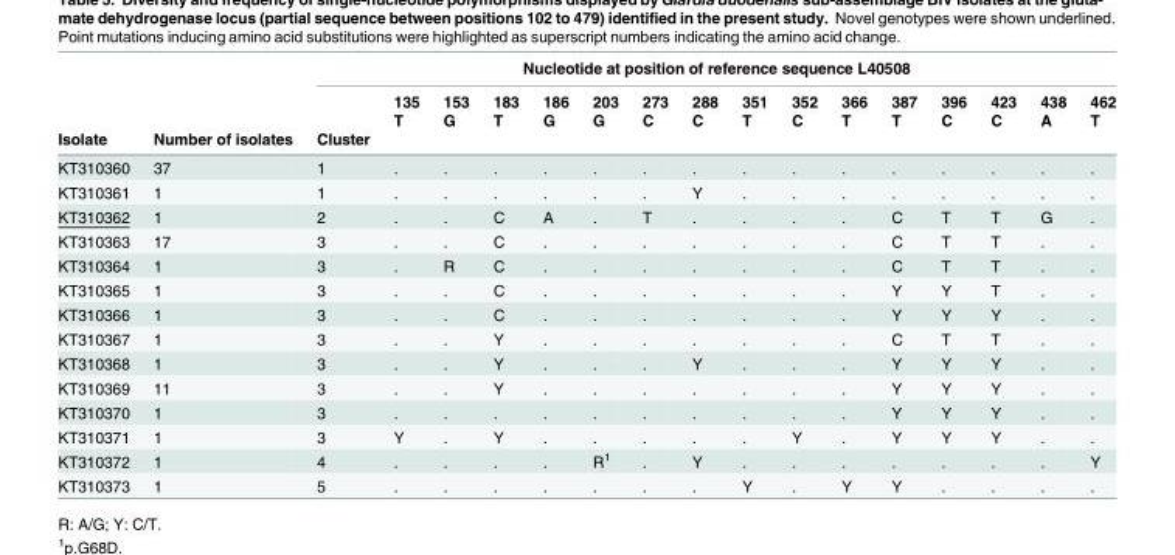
<table><thead><tr><td rowspan="4">Isolate</td><td rowspan="4">Number of isolates</td><td colspan="16">Nucleotide at position of reference sequence L40508</td></tr><tr><td rowspan="3">Cluster</td><td rowspan="3">135 T</td><td rowspan="3">153 G</td><td rowspan="3">183 T</td><td rowspan="3">186 G</td><td rowspan="3">203 G</td><td rowspan="3">273 C</td><td rowspan="3">288 C</td><td rowspan="3">351 T</td><td rowspan="3">352 C</td><td rowspan="3">366 T</td><td rowspan="3">387 T</td><td rowspan="3">396 C</td><td rowspan="3">423 C</td><td rowspan="3">438 A</td><td rowspan="3">462 T</td></tr><tr></tr><tr></tr></thead><tbody><tr><td>KT310360</td><td>37</td><td>1</td><td>.</td><td>.</td><td>.</td><td>.</td><td>.</td><td>.</td><td>.</td><td>.</td><td>.</td><td>.</td><td>.</td><td>.</td><td>.</td><td>.</td><td>.</td></tr><tr><td>KT310361</td><td>1</td><td>1</td><td>.</td><td>.</td><td>.</td><td>.</td><td>.</td><td>.</td><td>Y</td><td>.</td><td>.</td><td>.</td><td>.</td><td>.</td><td>.</td><td>.</td><td>.</td></tr><tr><td>KT310362</td><td>1</td><td>2</td><td>.</td><td>.</td><td>C</td><td>A</td><td>.</td><td>T</td><td>.</td><td>.</td><td>.</td><td>.</td><td>C</td><td>T</td><td>T</td><td>G</td><td>.</td></tr><tr><td>KT310363</td><td>17</td><td>3</td><td>.</td><td>.</td><td>C</td><td>.</td><td>.</td><td>.</td><td>.</td><td>.</td><td>.</td><td>.</td><td>C</td><td>T</td><td>T</td><td>.</td><td>.</td></tr><tr><td>KT310364</td><td>1</td><td>3</td><td>.</td><td>R</td><td>C</td><td>.</td><td>.</td><td>.</td><td>.</td><td>.</td><td>.</td><td>.</td><td>C</td><td>T</td><td>T</td><td>.</td><td>.</td></tr><tr><td>KT310365</td><td>1</td><td>3</td><td>.</td><td>.</td><td>C</td><td>.</td><td>.</td><td>.</td><td>.</td><td>.</td><td>.</td><td>.</td><td>Y</td><td>Y</td><td>T</td><td>.</td><td>.</td></tr><tr><td>KT310366</td><td>1</td><td>3</td><td>.</td><td>.</td><td>C</td><td>.</td><td>.</td><td>.</td><td>.</td><td>.</td><td>.</td><td>.</td><td>Y</td><td>Y</td><td>Y</td><td>.</td><td>.</td></tr><tr><td>KT310367</td><td>1</td><td>3</td><td>.</td><td>.</td><td>Y</td><td>.</td><td>.</td><td>.</td><td>.</td><td>.</td><td>.</td><td>.</td><td>C</td><td>T</td><td>T</td><td>.</td><td>.</td></tr><tr><td>KT310368</td><td>1</td><td>3</td><td>.</td><td>.</td><td>Y</td><td>.</td><td>.</td><td>.</td><td>Y</td><td>.</td><td>.</td><td>.</td><td>Y</td><td>Y</td><td>Y</td><td>.</td><td>.</td></tr><tr><td>KT310369</td><td>11</td><td>3</td><td>.</td><td>.</td><td>Y</td><td>.</td><td>.</td><td>.</td><td>.</td><td>.</td><td>.</td><td>.</td><td>Y</td><td>Y</td><td>Y</td><td>.</td><td>.</td></tr><tr><td>KT310370</td><td>1</td><td>3</td><td>.</td><td>.</td><td>.</td><td>.</td><td>.</td><td>.</td><td>.</td><td>.</td><td>.</td><td>.</td><td>Y</td><td>Y</td><td>Y</td><td>.</td><td>.</td></tr><tr><td>KT310371</td><td>1</td><td>3</td><td>Y</td><td>.</td><td>Y</td><td>.</td><td>.</td><td>.</td><td>.</td><td>.</td><td>Y</td><td>.</td><td>Y</td><td>Y</td><td>Y</td><td>.</td><td>.</td></tr><tr><td>KT310372</td><td>1</td><td>4</td><td>.</td><td>.</td><td>.</td><td>.</td><td>R<sup>1</sup></td><td>.</td><td>Y</td><td>.</td><td>.</td><td>.</td><td>.</td><td>.</td><td>.</td><td>.</td><td>Y</td></tr><tr><td>KT310373</td><td>1</td><td>5</td><td>.</td><td>.</td><td>.</td><td>.</td><td>.</td><td>.</td><td>.</td><td>Y</td><td>.</td><td>Y</td><td>Y</td><td>.</td><td>.</td><td>.</td><td>.</td></tr></tbody></table>